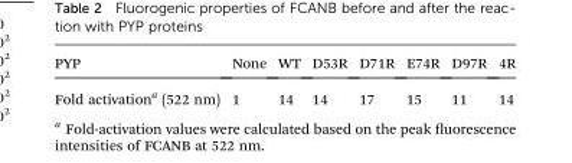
<table><thead><tr><td>PYP</td><td>None</td><td>WT</td><td>D53R</td><td>D71R</td><td>E74R</td><td>D97R</td><td>4R</td></tr></thead><tbody><tr><td>Fold activation<sup>a</sup> (522 nm)</td><td>1</td><td>14</td><td>14</td><td>17</td><td>15</td><td>11</td><td>14</td></tr></tbody></table>